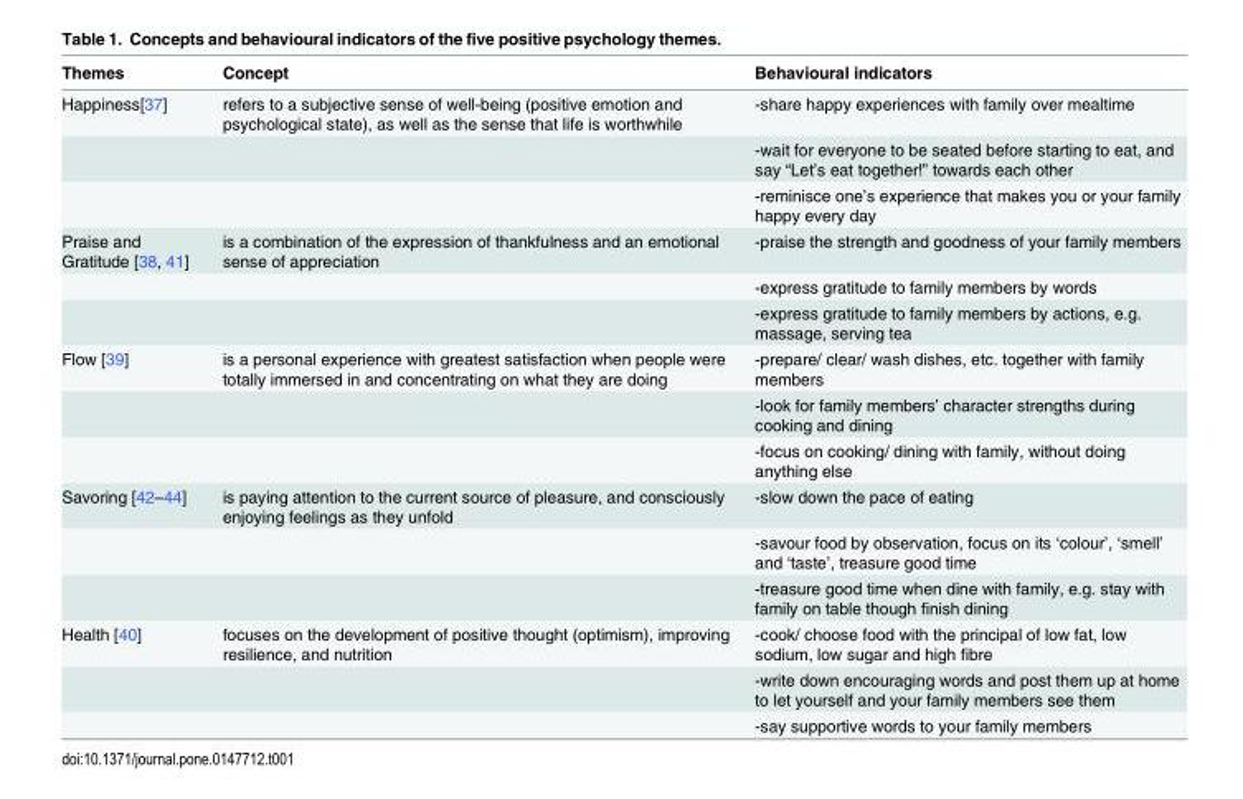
<table><thead><tr><td>Themes</td><td>Concept</td><td>Behavioural indicators</td></tr></thead><tbody><tr><td rowspan="3">Happiness[37]</td><td>refers to a subjective sense of well-being (positive emotion and psychological state), as well as the sense that life is worthwhile</td><td>-share happy experiences with family over mealtime</td></tr><tr><td></td><td>-wait for everyone to be seated before starting to eat, and say “Let’s eat together!” towards each other</td></tr><tr><td></td><td>-reminisce one’s experience that makes you or your family happy every day</td></tr><tr><td rowspan="3">Praise and Gratitude [38, 41]</td><td>is a combination of the expression of thankfulness and an emotional sense of appreciation</td><td>-praise the strength and goodness of your family members</td></tr><tr><td></td><td>-express gratitude to family members by words</td></tr><tr><td></td><td>-express gratitude to family members by actions, e.g. massage, serving tea</td></tr><tr><td rowspan="3">Flow [39]</td><td>is a personal experience with greatest satisfaction when people were totally immersed in and concentrating on what they are doing</td><td>-prepare/ clear/ wash dishes, etc. together with family members</td></tr><tr><td></td><td>-look for family members’ character strengths during cooking and dining</td></tr><tr><td></td><td>-focus on cooking/ dining with family, without doing anything else</td></tr><tr><td rowspan="3">Savoring [42–44]</td><td>is paying attention to the current source of pleasure, and consciously enjoying feelings as they unfold</td><td>-slow down the pace of eating</td></tr><tr><td></td><td>-savour food by observation, focus on its ‘colour’, ‘smell’ and ‘taste’, treasure good time</td></tr><tr><td></td><td>-treasure good time when dine with family, e.g. stay with family on table though finish dining</td></tr><tr><td rowspan="3">Health [40]</td><td>focuses on the development of positive thought (optimism), improving resilience, and nutrition</td><td>-cook/ choose food with the principal of low fat, low sodium, low sugar and high fibre</td></tr><tr><td></td><td>-write down encouraging words and post them up at home to let yourself and your family members see them</td></tr><tr><td></td><td>-say supportive words to your family members</td></tr></tbody></table>